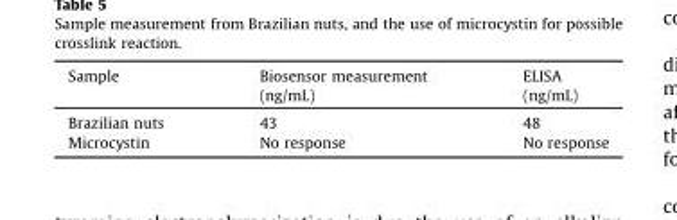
<table><thead><tr><td>Sample</td><td>Biosensor measurement (ng/mL)</td><td>ELISA (ng/mL)</td></tr></thead><tbody><tr><td>Brazilian nuts</td><td>43</td><td>48</td></tr><tr><td>Microcystin</td><td>No response</td><td>No response</td></tr></tbody></table>